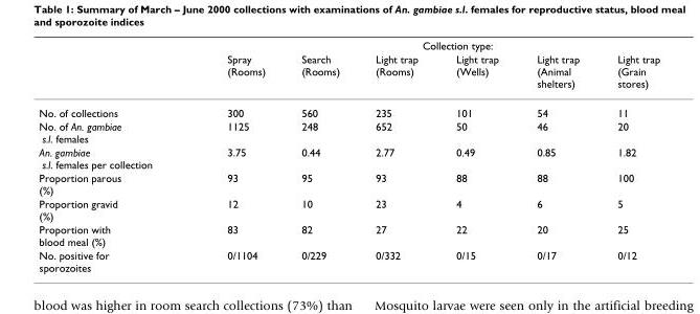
<table><thead><tr><td rowspan="2"></td><td colspan="6">Collection type:</td></tr><tr><td>Spray (Rooms)</td><td>Search (Rooms)</td><td>Light trap (Rooms)</td><td>Light trap (Wells)</td><td>Light trap (Animal shelters)</td><td>Light trap (Grain stores)</td></tr></thead><tbody><tr><td>No. of collections</td><td>300</td><td>560</td><td>235</td><td>101</td><td>54</td><td>11</td></tr><tr><td>No. of An. gambiae s.l. females</td><td>1125</td><td>248</td><td>652</td><td>50</td><td>46</td><td>20</td></tr><tr><td>An. gambiae s.l. females per collection</td><td>3.75</td><td>0.44</td><td>2.77</td><td>0.49</td><td>0.85</td><td>1.82</td></tr><tr><td>Proportion parous (%)</td><td>93</td><td>95</td><td>93</td><td>88</td><td>88</td><td>100</td></tr><tr><td>Proportion gravid (%)</td><td>12</td><td>10</td><td>23</td><td>4</td><td>6</td><td>5</td></tr><tr><td>Proportion with blood meal (%)</td><td>83</td><td>82</td><td>27</td><td>22</td><td>20</td><td>25</td></tr><tr><td>No. positive for sporozoites</td><td>0/1104</td><td>0/229</td><td>0/332</td><td>0/15</td><td>0/17</td><td>0/12</td></tr></tbody></table>